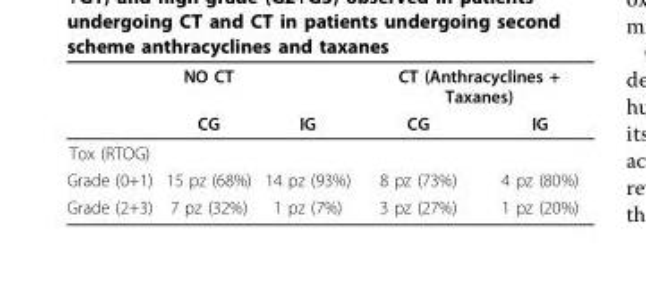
<table><thead><tr><td colspan="3">NO CT</td><td colspan="2">CT (Anthracyclines + Taxanes)</td></tr><tr><td></td><td>CG</td><td>IG</td><td>CG</td><td>IG</td></tr></thead><tbody><tr><td colspan="5">Tox (RTOG)</td></tr><tr><td>Grade (0+1)</td><td>15 pz (68%)</td><td>14 pz (93%)</td><td>8 pz (73%)</td><td>4 pz (80%)</td></tr><tr><td>Grade (2+3)</td><td>7 pz (32%)</td><td>1 pz (7%)</td><td>3 pz (27%)</td><td>1 pz (20%)</td></tr></tbody></table>